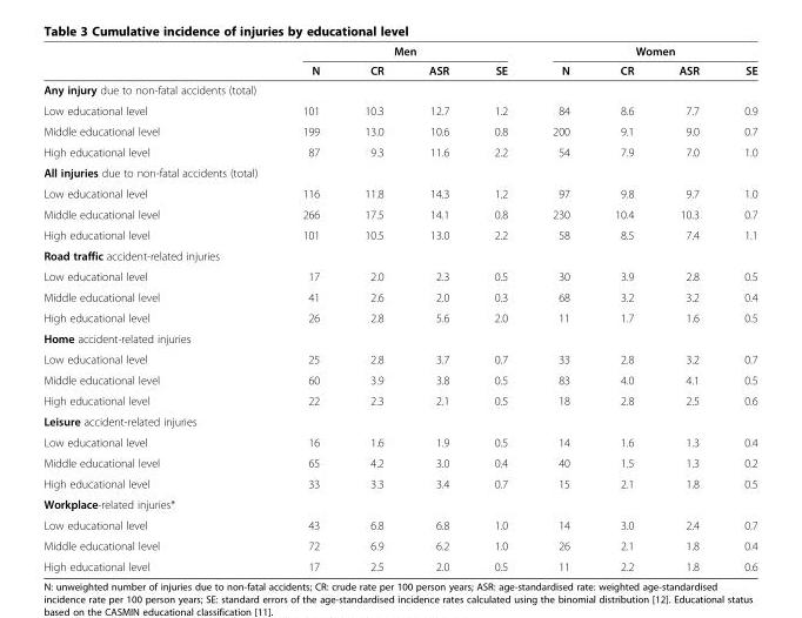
<table><thead><tr><td rowspan="2"></td><td colspan="4">Men</td><td colspan="4">Women</td></tr><tr><td>N</td><td>CR</td><td>ASR</td><td>SE</td><td>N</td><td>CR</td><td>ASR</td><td>SE</td></tr></thead><tbody><tr><td colspan="9">Any injury due to non-fatal accidents (total)</td></tr><tr><td>Low educational level</td><td>101</td><td>10.3</td><td>12.7</td><td>1.2</td><td>84</td><td>8.6</td><td>7.7</td><td>0.9</td></tr><tr><td>Middle educational level</td><td>199</td><td>13.0</td><td>10.6</td><td>0.8</td><td>200</td><td>9.1</td><td>9.0</td><td>0.7</td></tr><tr><td>High educational level</td><td>87</td><td>9.3</td><td>11.6</td><td>2.2</td><td>54</td><td>7.9</td><td>7.0</td><td>1.0</td></tr><tr><td colspan="9">All injuries due to non-fatal accidents (total)</td></tr><tr><td>Low educational level</td><td>116</td><td>11.8</td><td>14.3</td><td>1.2</td><td>97</td><td>9.8</td><td>9.7</td><td>1.0</td></tr><tr><td>Middle educational level</td><td>266</td><td>17.5</td><td>14.1</td><td>0.8</td><td>230</td><td>10.4</td><td>10.3</td><td>0.7</td></tr><tr><td>High educational level</td><td>101</td><td>10.5</td><td>13.0</td><td>2.2</td><td>58</td><td>8.5</td><td>7.4</td><td>1.1</td></tr><tr><td colspan="9">Road traffic accident-related injuries</td></tr><tr><td>Low educational level</td><td>17</td><td>2.0</td><td>2.3</td><td>0.5</td><td>30</td><td>3.9</td><td>2.8</td><td>0.5</td></tr><tr><td>Middle educational level</td><td>41</td><td>2.6</td><td>2.0</td><td>0.3</td><td>68</td><td>3.2</td><td>3.2</td><td>0.4</td></tr><tr><td>High educational level</td><td>26</td><td>2.8</td><td>5.6</td><td>2.0</td><td>11</td><td>1.7</td><td>1.6</td><td>0.5</td></tr><tr><td colspan="9">Home accident-related injuries</td></tr><tr><td>Low educational level</td><td>25</td><td>2.8</td><td>3.7</td><td>0.7</td><td>33</td><td>2.8</td><td>3.2</td><td>0.7</td></tr><tr><td>Middle educational level</td><td>60</td><td>3.9</td><td>3.8</td><td>0.5</td><td>83</td><td>4.0</td><td>4.1</td><td>0.5</td></tr><tr><td>High educational level</td><td>22</td><td>2.3</td><td>2.1</td><td>0.5</td><td>18</td><td>2.8</td><td>2.5</td><td>0.6</td></tr><tr><td colspan="9">Leisure accident-related injuries</td></tr><tr><td>Low educational level</td><td>16</td><td>1.6</td><td>1.9</td><td>0.5</td><td>14</td><td>1.6</td><td>1.3</td><td>0.4</td></tr><tr><td>Middle educational level</td><td>65</td><td>4.2</td><td>3.0</td><td>0.4</td><td>40</td><td>1.5</td><td>1.3</td><td>0.2</td></tr><tr><td>High educational level</td><td>33</td><td>3.3</td><td>3.4</td><td>0.7</td><td>15</td><td>2.1</td><td>1.8</td><td>0.5</td></tr><tr><td colspan="9">Workplace-related injuries*</td></tr><tr><td>Low educational level</td><td>43</td><td>6.8</td><td>6.8</td><td>1.0</td><td>14</td><td>3.0</td><td>2.4</td><td>0.7</td></tr><tr><td>Middle educational level</td><td>72</td><td>6.9</td><td>6.2</td><td>1.0</td><td>26</td><td>2.1</td><td>1.8</td><td>0.4</td></tr><tr><td>High educational level</td><td>17</td><td>2.5</td><td>2.0</td><td>0.5</td><td>11</td><td>2.2</td><td>1.8</td><td>0.6</td></tr></tbody></table>